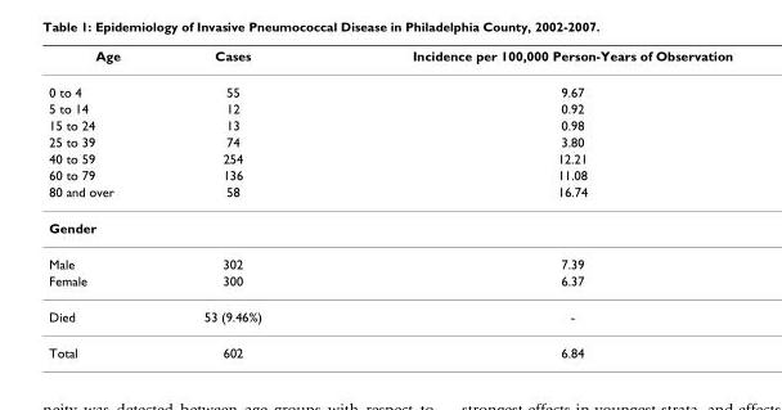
<table><thead><tr><td>Age</td><td>Cases</td><td>Incidence per 100,000 Person-Years of Observation</td></tr></thead><tbody><tr><td>0 to 4</td><td>55</td><td>9.67</td></tr><tr><td>5 to 14</td><td>12</td><td>0.92</td></tr><tr><td>15 to 24</td><td>13</td><td>0.98</td></tr><tr><td>25 to 39</td><td>74</td><td>3.80</td></tr><tr><td>40 to 59</td><td>254</td><td>12.21</td></tr><tr><td>60 to 79</td><td>136</td><td>11.08</td></tr><tr><td>80 and over</td><td>58</td><td>16.74</td></tr><tr><td colspan="3">Gender</td></tr><tr><td>Male</td><td>302</td><td>7.39</td></tr><tr><td>Female</td><td>300</td><td>6.37</td></tr><tr><td>Died</td><td>53 (9.46%)</td><td>-</td></tr><tr><td>Total</td><td>602</td><td>6.84</td></tr></tbody></table>